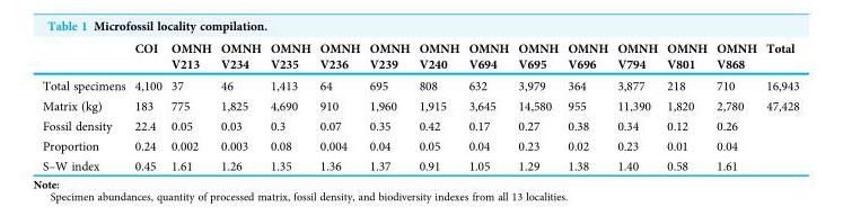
<table><thead><tr><td></td><td>COI</td><td>OMNH V213</td><td>OMNH V234</td><td>OMNH V235</td><td>OMNH V236</td><td>OMNH V239</td><td>OMNH V240</td><td>OMNH V694</td><td>OMNH V695</td><td>OMNH V696</td><td>OMNH V794</td><td>OMNH V801</td><td>OMNH V868</td><td>Total</td></tr></thead><tbody><tr><td>Total specimens</td><td>4,100</td><td>37</td><td>46</td><td>1,413</td><td>64</td><td>695</td><td>808</td><td>632</td><td>3,979</td><td>364</td><td>3,877</td><td>218</td><td>710</td><td>16,943</td></tr><tr><td>Matrix (kg)</td><td>183</td><td>775</td><td>1,825</td><td>4,690</td><td>910</td><td>1,960</td><td>1,915</td><td>3,645</td><td>14,580</td><td>955</td><td>11,390</td><td>1,820</td><td>2,780</td><td>47,428</td></tr><tr><td>Fossil density</td><td>22.4</td><td>0.05</td><td>0.03</td><td>0.3</td><td>0.07</td><td>0.35</td><td>0.42</td><td>0.17</td><td>0.27</td><td>0.38</td><td>0.34</td><td>0.12</td><td>0.26</td><td></td></tr><tr><td>Proportion</td><td>0.24</td><td>0.002</td><td>0.003</td><td>0.08</td><td>0.004</td><td>0.04</td><td>0.05</td><td>0.04</td><td>0.23</td><td>0.02</td><td>0.23</td><td>0.01</td><td>0.04</td><td></td></tr><tr><td>S–W index</td><td>0.45</td><td>1.61</td><td>1.26</td><td>1.35</td><td>1.36</td><td>1.37</td><td>0.91</td><td>1.05</td><td>1.29</td><td>1.38</td><td>1.40</td><td>0.58</td><td>1.61</td><td></td></tr></tbody></table>